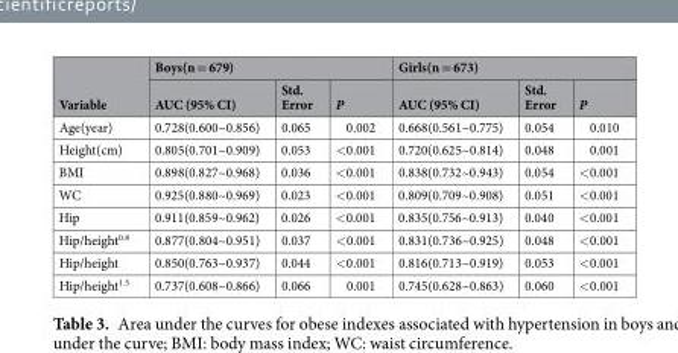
<table><thead><tr><td rowspan="2">Variable</td><td colspan="3">Boys(n = 679)</td><td colspan="3">Girls(n = 673)</td></tr><tr><td>AUC (95% CI)</td><td>Std. Error</td><td>P</td><td>AUC (95% CI)</td><td>Std. Error</td><td>P</td></tr></thead><tbody><tr><td>Age(year)</td><td>0.728(0.600~0.856)</td><td>0.065</td><td>0.002</td><td>0.668(0.561~0.775)</td><td>0.054</td><td>0.010</td></tr><tr><td>Height(cm)</td><td>0.805(0.701~0.909)</td><td>0.053</td><td>&lt;0.001</td><td>0.720(0.625~0.814)</td><td>0.048</td><td>0.001</td></tr><tr><td>BMI</td><td>0.898(0.827~0.968)</td><td>0.036</td><td>&lt;0.001</td><td>0.838(0.732~0.943)</td><td>0.054</td><td>&lt;0.001</td></tr><tr><td>WC</td><td>0.925(0.880~0.969)</td><td>0.023</td><td>&lt;0.001</td><td>0.809(0.709~0.908)</td><td>0.051</td><td>&lt;0.001</td></tr><tr><td>Hip</td><td>0.911(0.859~0.962)</td><td>0.026</td><td>&lt;0.001</td><td>0.835(0.756~0.913)</td><td>0.040</td><td>&lt;0.001</td></tr><tr><td>Hip/height<sup>0.8</sup></td><td>0.877(0.804~0.951)</td><td>0.037</td><td>&lt;0.001</td><td>0.831(0.736~0.925)</td><td>0.048</td><td>&lt;0.001</td></tr><tr><td>Hip/height</td><td>0.850(0.763~0.937)</td><td>0.044</td><td>&lt;0.001</td><td>0.816(0.713~0.919)</td><td>0.053</td><td>&lt;0.001</td></tr><tr><td>Hip/height<sup>1.5</sup></td><td>0.737(0.608~0.866)</td><td>0.066</td><td>0.001</td><td>0.745(0.628~0.863)</td><td>0.060</td><td>&lt;0.001</td></tr></tbody></table>